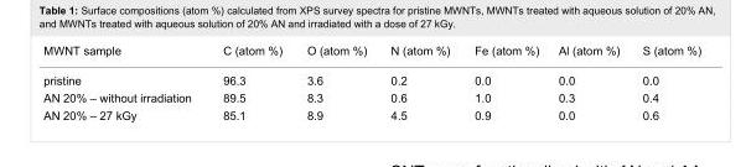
<table><tbody><tr><td>MWNT sample</td><td>C (atom %)</td><td>O (atom %)</td><td>N (atom %)</td><td>Fe (atom %)</td><td>Al (atom %)</td><td>S (atom %)</td></tr><tr><td>pristine</td><td>96.3</td><td>3.6</td><td>0.2</td><td>0.0</td><td>0.0</td><td>0.0</td></tr><tr><td>AN 20% – without irradiation</td><td>89.5</td><td>8.3</td><td>0.6</td><td>1.0</td><td>0.3</td><td>0.4</td></tr><tr><td>AN 20% – 27 kGy</td><td>85.1</td><td>8.9</td><td>4.5</td><td>0.9</td><td>0.0</td><td>0.6</td></tr></tbody></table>